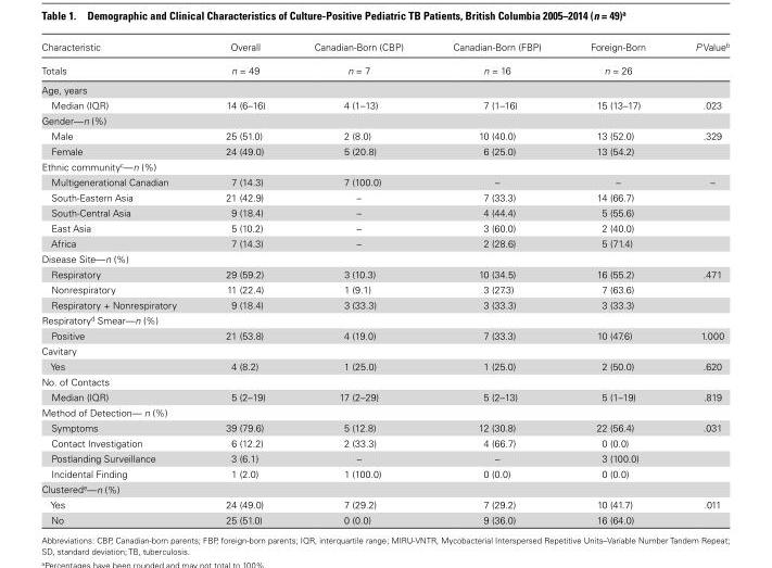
<table><thead><tr><td rowspan="2">Characteristic Totals</td><td rowspan="2">Overall n = 49</td><td rowspan="2">Canadian-Born (CBP) n = 7</td><td rowspan="2">Canadian-Born (FBP) n = 16</td><td rowspan="2">Foreign-Born n = 26</td><td rowspan="2">P Value<sup>b</sup></td></tr><tr></tr></thead><tbody><tr><td colspan="6">Age, years</td></tr><tr><td>Median (IQR)</td><td>14 (6–16)</td><td>4 (1–13)</td><td>7 (1–16)</td><td>15 (13–17)</td><td>.023</td></tr><tr><td colspan="6">Gender—n (%)</td></tr><tr><td>Male</td><td>25 (51.0)</td><td>2 (8.0)</td><td>10 (40.0)</td><td>13 (52.0)</td><td>.329</td></tr><tr><td>Female</td><td>24 (49.0)</td><td>5 (20.8)</td><td>6 (25.0)</td><td>13 (54.2)</td><td></td></tr><tr><td colspan="6">Ethnic community<sup>c</sup>—n (%)</td></tr><tr><td>Multigenerational Canadian</td><td>7 (14.3)</td><td>7 (100.0)</td><td>–</td><td>–</td><td>–</td></tr><tr><td>South-Eastern Asia</td><td>21 (42.9)</td><td>–</td><td>7 (33.3)</td><td>14 (66.7)</td><td></td></tr><tr><td>South-Central Asia</td><td>9 (18.4)</td><td>–</td><td>4 (44.4)</td><td>5 (55.6)</td><td></td></tr><tr><td>East Asia</td><td>5 (10.2)</td><td>–</td><td>3 (60.0)</td><td>2 (40.0)</td><td></td></tr><tr><td>Africa</td><td>7 (14.3)</td><td>–</td><td>2 (28.6)</td><td>5 (71.4)</td><td></td></tr><tr><td colspan="6">Disease Site—n (%)</td></tr><tr><td>Respiratory</td><td>29 (59.2)</td><td>3 (10.3)</td><td>10 (34.5)</td><td>16 (55.2)</td><td>.471</td></tr><tr><td>Nonrespiratory</td><td>11 (22.4)</td><td>1 (9.1)</td><td>3 (27.3)</td><td>7 (63.6)</td><td></td></tr><tr><td>Respiratory + Nonrespiratory</td><td>9 (18.4)</td><td>3 (33.3)</td><td>3 (33.3)</td><td>3 (33.3)</td><td></td></tr><tr><td colspan="6">Respiratory<sup>d</sup> Smear—n (%)</td></tr><tr><td>Positive</td><td>21 (53.8)</td><td>4 (19.0)</td><td>7 (33.3)</td><td>10 (47.6)</td><td>1.000</td></tr><tr><td colspan="6">Cavitary</td></tr><tr><td>Yes</td><td>4 (8.2)</td><td>1 (25.0)</td><td>1 (25.0)</td><td>2 (50.0)</td><td>.620</td></tr><tr><td colspan="6">No. of Contacts</td></tr><tr><td>Median (IQR)</td><td>5 (2–19)</td><td>17 (2–29)</td><td>5 (2–13)</td><td>5 (1–19)</td><td>.819</td></tr><tr><td colspan="6">Method of Detection— n (%)</td></tr><tr><td>Symptoms</td><td>39 (79.6)</td><td>5 (12.8)</td><td>12 (30.8)</td><td>22 (56.4)</td><td>.031</td></tr><tr><td>Contact Investigation</td><td>6 (12.2)</td><td>2 (33.3)</td><td>4 (66.7)</td><td>0 (0.0)</td><td></td></tr><tr><td>Postlanding Surveillance</td><td>3 (6.1)</td><td>–</td><td>–</td><td>3 (100.0)</td><td></td></tr><tr><td>Incidental Finding</td><td>1 (2.0)</td><td>1 (100.0)</td><td>0 (0.0)</td><td>0 (0.0)</td><td></td></tr><tr><td colspan="6">Clustered<sup>e</sup>—n (%)</td></tr><tr><td>Yes</td><td>24 (49.0)</td><td>7 (29.2)</td><td>7 (29.2)</td><td>10 (41.7)</td><td>.011</td></tr><tr><td>No</td><td>25 (51.0)</td><td>0 (0.0)</td><td>9 (36.0)</td><td>16 (64.0)</td><td></td></tr></tbody></table>